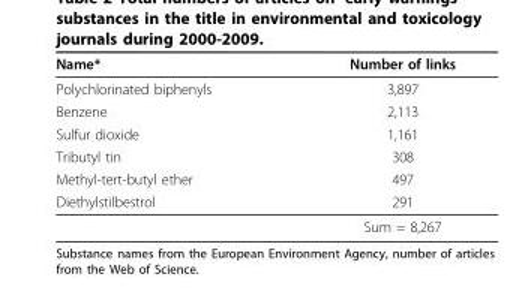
<table><thead><tr><td>Name*</td><td>Number of links</td></tr></thead><tbody><tr><td>Polychlorinated biphenyls</td><td>3,897</td></tr><tr><td>Benzene</td><td>2,113</td></tr><tr><td>Sulfur dioxide</td><td>1,161</td></tr><tr><td>Tributyl tin</td><td>308</td></tr><tr><td>Methyl-tert-butyl ether</td><td>497</td></tr><tr><td rowspan="2">Diethylstilbestrol</td><td>291</td></tr><tr><td>Sum = 8,267</td></tr></tbody></table>